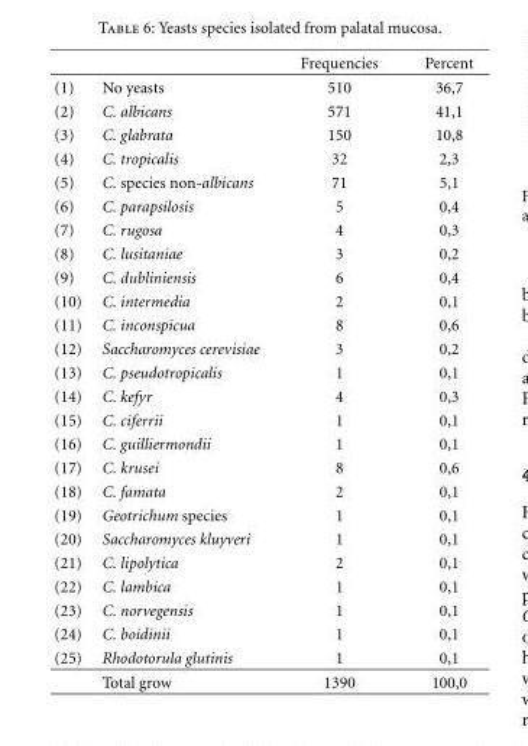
<table><thead><tr><td></td><td></td><td>Frequencies</td><td>Percent</td></tr></thead><tbody><tr><td>(1)</td><td>No yeasts</td><td>510</td><td>36,7</td></tr><tr><td>(2)</td><td>C. albicans</td><td>571</td><td>41,1</td></tr><tr><td>(3)</td><td>C. glabrata</td><td>150</td><td>10,8</td></tr><tr><td>(4)</td><td>C. tropicalis</td><td>32</td><td>2,3</td></tr><tr><td>(5)</td><td>C. species non-albicans</td><td>71</td><td>5,1</td></tr><tr><td>(6)</td><td>C. parapsilosis</td><td>5</td><td>0,4</td></tr><tr><td>(7)</td><td>C. rugosa</td><td>4</td><td>0,3</td></tr><tr><td>(8)</td><td>C. lusitaniae</td><td>3</td><td>0,2</td></tr><tr><td>(9)</td><td>C. dubliniensis</td><td>6</td><td>0,4</td></tr><tr><td>(10)</td><td>C. intermedia</td><td>2</td><td>0,1</td></tr><tr><td>(11)</td><td>C. inconspicua</td><td>8</td><td>0,6</td></tr><tr><td>(12)</td><td>Saccharomyces cerevisiae</td><td>3</td><td>0,2</td></tr><tr><td>(13)</td><td>C. pseudotropicalis</td><td>1</td><td>0,1</td></tr><tr><td>(14)</td><td>C. kefyr</td><td>4</td><td>0,3</td></tr><tr><td>(15)</td><td>C. ciferrii</td><td>1</td><td>0,1</td></tr><tr><td>(16)</td><td>C. guilliermondii</td><td>1</td><td>0,1</td></tr><tr><td>(17)</td><td>C. krusei</td><td>8</td><td>0,6</td></tr><tr><td>(18)</td><td>C. famata</td><td>2</td><td>0,1</td></tr><tr><td>(19)</td><td>Geotrichum species</td><td>1</td><td>0,1</td></tr><tr><td>(20)</td><td>Saccharomyces kluyveri</td><td>1</td><td>0,1</td></tr><tr><td>(21)</td><td>C. lipolytica</td><td>2</td><td>0,1</td></tr><tr><td>(22)</td><td>C. lambica</td><td>1</td><td>0,1</td></tr><tr><td>(23)</td><td>C. norvegensis</td><td>1</td><td>0,1</td></tr><tr><td>(24)</td><td>C. boidinii</td><td>1</td><td>0,1</td></tr><tr><td rowspan="2">(25)</td><td>Rhodotorula glutinis</td><td>1</td><td>0,1</td></tr><tr><td>Total grow</td><td>1390</td><td>100,0</td></tr></tbody></table>